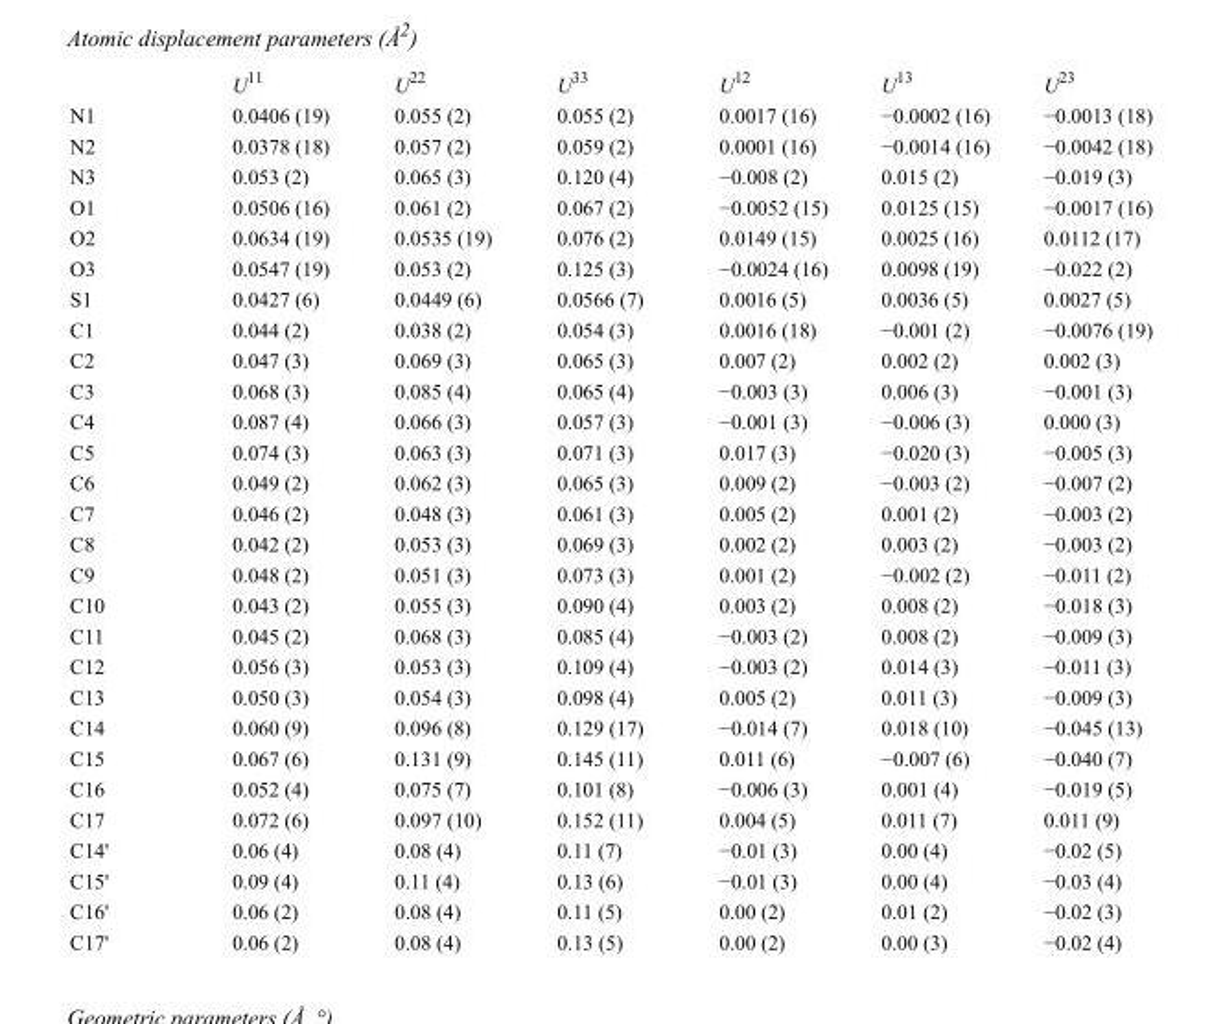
<table><thead><tr><td></td><td>U<sup>11</sup></td><td>U<sup>22</sup></td><td>U<sup>33</sup></td><td>U<sup>12</sup></td><td>U<sup>13</sup></td><td>U<sup>23</sup></td></tr></thead><tbody><tr><td>N1</td><td>0.0406 (19)</td><td>0.055 (2)</td><td>0.055 (2)</td><td>0.0017 (16)</td><td>−0.0002 (16)</td><td>−0.0013 (18)</td></tr><tr><td>N2</td><td>0.0378 (18)</td><td>0.057 (2)</td><td>0.059 (2)</td><td>0.0001 (16)</td><td>−0.0014 (16)</td><td>−0.0042 (18)</td></tr><tr><td>N3</td><td>0.053 (2)</td><td>0.065 (3)</td><td>0.120 (4)</td><td>−0.008 (2)</td><td>0.015 (2)</td><td>−0.019 (3)</td></tr><tr><td>O1</td><td>0.0506 (16)</td><td>0.061 (2)</td><td>0.067 (2)</td><td>−0.0052 (15)</td><td>0.0125 (15)</td><td>−0.0017 (16)</td></tr><tr><td>O2</td><td>0.0634 (19)</td><td>0.0535 (19)</td><td>0.076 (2)</td><td>0.0149 (15)</td><td>0.0025 (16)</td><td>0.0112 (17)</td></tr><tr><td>O3</td><td>0.0547 (19)</td><td>0.053 (2)</td><td>0.125 (3)</td><td>−0.0024 (16)</td><td>0.0098 (19)</td><td>−0.022 (2)</td></tr><tr><td>S1</td><td>0.0427 (6)</td><td>0.0449 (6)</td><td>0.0566 (7)</td><td>0.0016 (5)</td><td>0.0036 (5)</td><td>0.0027 (5)</td></tr><tr><td>C1</td><td>0.044 (2)</td><td>0.038 (2)</td><td>0.054 (3)</td><td>0.0016 (18)</td><td>−0.001 (2)</td><td>−0.0076 (19)</td></tr><tr><td>C2</td><td>0.047 (3)</td><td>0.069 (3)</td><td>0.065 (3)</td><td>0.007 (2)</td><td>0.002 (2)</td><td>0.002 (3)</td></tr><tr><td>C3</td><td>0.068 (3)</td><td>0.085 (4)</td><td>0.065 (4)</td><td>−0.003 (3)</td><td>0.006 (3)</td><td>−0.001 (3)</td></tr><tr><td>C4</td><td>0.087 (4)</td><td>0.066 (3)</td><td>0.057 (3)</td><td>−0.001 (3)</td><td>−0.006 (3)</td><td>0.000 (3)</td></tr><tr><td>C5</td><td>0.074 (3)</td><td>0.063 (3)</td><td>0.071 (3)</td><td>0.017 (3)</td><td>−0.020 (3)</td><td>−0.005 (3)</td></tr><tr><td>C6</td><td>0.049 (2)</td><td>0.062 (3)</td><td>0.065 (3)</td><td>0.009 (2)</td><td>−0.003 (2)</td><td>−0.007 (2)</td></tr><tr><td>C7</td><td>0.046 (2)</td><td>0.048 (3)</td><td>0.061 (3)</td><td>0.005 (2)</td><td>0.001 (2)</td><td>−0.003 (2)</td></tr><tr><td>C8</td><td>0.042 (2)</td><td>0.053 (3)</td><td>0.069 (3)</td><td>0.002 (2)</td><td>0.003 (2)</td><td>−0.003 (2)</td></tr><tr><td>C9</td><td>0.048 (2)</td><td>0.051 (3)</td><td>0.073 (3)</td><td>0.001 (2)</td><td>−0.002 (2)</td><td>−0.011 (2)</td></tr><tr><td>C10</td><td>0.043 (2)</td><td>0.055 (3)</td><td>0.090 (4)</td><td>0.003 (2)</td><td>0.008 (2)</td><td>−0.018 (3)</td></tr><tr><td>C11</td><td>0.045 (2)</td><td>0.068 (3)</td><td>0.085 (4)</td><td>−0.003 (2)</td><td>0.008 (2)</td><td>−0.009 (3)</td></tr><tr><td>C12</td><td>0.056 (3)</td><td>0.053 (3)</td><td>0.109 (4)</td><td>−0.003 (2)</td><td>0.014 (3)</td><td>−0.011 (3)</td></tr><tr><td>C13</td><td>0.050 (3)</td><td>0.054 (3)</td><td>0.098 (4)</td><td>0.005 (2)</td><td>0.011 (3)</td><td>−0.009 (3)</td></tr><tr><td>C14</td><td>0.060 (9)</td><td>0.096 (8)</td><td>0.129 (17)</td><td>−0.014 (7)</td><td>0.018 (10)</td><td>−0.045 (13)</td></tr><tr><td>C15</td><td>0.067 (6)</td><td>0.131 (9)</td><td>0.145 (11)</td><td>0.011 (6)</td><td>−0.007 (6)</td><td>−0.040 (7)</td></tr><tr><td>C16</td><td>0.052 (4)</td><td>0.075 (7)</td><td>0.101 (8)</td><td>−0.006 (3)</td><td>0.001 (4)</td><td>−0.019 (5)</td></tr><tr><td>C17</td><td>0.072 (6)</td><td>0.097 (10)</td><td>0.152 (11)</td><td>0.004 (5)</td><td>0.011 (7)</td><td>0.011 (9)</td></tr><tr><td>C14&#x27;</td><td>0.06 (4)</td><td>0.08 (4)</td><td>0.11 (7)</td><td>−0.01 (3)</td><td>0.00 (4)</td><td>−0.02 (5)</td></tr><tr><td>C15&#x27;</td><td>0.09 (4)</td><td>0.11 (4)</td><td>0.13 (6)</td><td>−0.01 (3)</td><td>0.00 (4)</td><td>−0.03 (4)</td></tr><tr><td>C16&#x27;</td><td>0.06 (2)</td><td>0.08 (4)</td><td>0.11 (5)</td><td>0.00 (2)</td><td>0.01 (2)</td><td>−0.02 (3)</td></tr><tr><td>C17&#x27;</td><td>0.06 (2)</td><td>0.08 (4)</td><td>0.13 (5)</td><td>0.00 (2)</td><td>0.00 (3)</td><td>−0.02 (4)</td></tr></tbody></table>